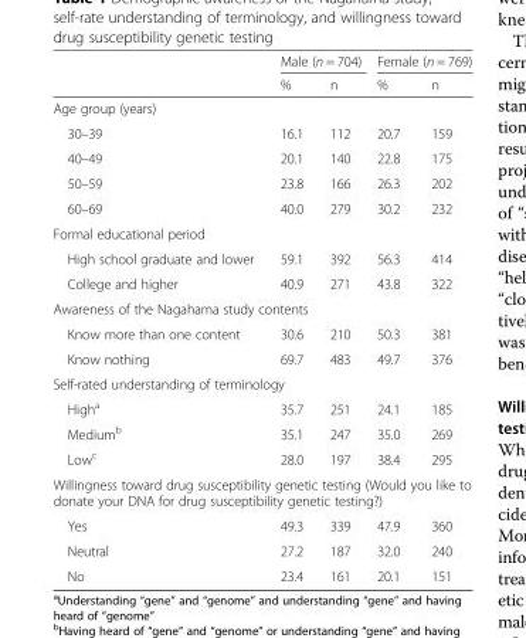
<table><thead><tr><td rowspan="2"></td><td colspan="2">Male (n = 704)</td><td colspan="2">Female (n = 769)</td></tr><tr><td>%</td><td>n</td><td>%</td><td>n</td></tr></thead><tbody><tr><td colspan="5">Age group (years)</td></tr><tr><td>30–39</td><td>16.1</td><td>112</td><td>20.7</td><td>159</td></tr><tr><td>40–49</td><td>20.1</td><td>140</td><td>22.8</td><td>175</td></tr><tr><td>50–59</td><td>23.8</td><td>166</td><td>26.3</td><td>202</td></tr><tr><td>60–69</td><td>40.0</td><td>279</td><td>30.2</td><td>232</td></tr><tr><td colspan="5">Formal educational period</td></tr><tr><td>High school graduate and lower</td><td>59.1</td><td>392</td><td>56.3</td><td>414</td></tr><tr><td>College and higher</td><td>40.9</td><td>271</td><td>43.8</td><td>322</td></tr><tr><td colspan="5">Awareness of the Nagahama study contents</td></tr><tr><td>Know more than one content</td><td>30.6</td><td>210</td><td>50.3</td><td>381</td></tr><tr><td>Know nothing</td><td>69.7</td><td>483</td><td>49.7</td><td>376</td></tr><tr><td colspan="5">Self-rated understanding of terminology</td></tr><tr><td>High<sup>a</sup></td><td>35.7</td><td>251</td><td>24.1</td><td>185</td></tr><tr><td>Medium<sup>b</sup></td><td>35.1</td><td>247</td><td>35.0</td><td>269</td></tr><tr><td>Low<sup>c</sup></td><td>28.0</td><td>197</td><td>38.4</td><td>295</td></tr><tr><td colspan="5">Willingness toward drug susceptibility genetic testing (Would you like to donate your DNA for drug susceptibility genetic testing?)</td></tr><tr><td>Yes</td><td>49.3</td><td>339</td><td>47.9</td><td>360</td></tr><tr><td>Neutral</td><td>27.2</td><td>187</td><td>32.0</td><td>240</td></tr><tr><td>No</td><td>23.4</td><td>161</td><td>20.1</td><td>151</td></tr></tbody></table>